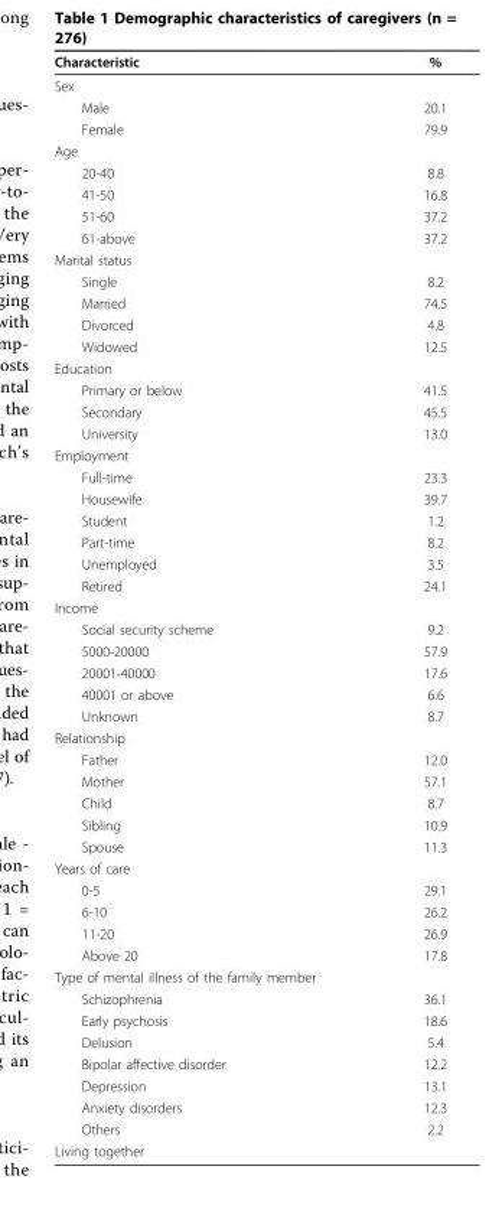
<table><thead><tr><td>Characteristic</td><td>%</td></tr></thead><tbody><tr><td colspan="2">Sex</td></tr><tr><td>Male</td><td>20.1</td></tr><tr><td>Female</td><td>79.9</td></tr><tr><td colspan="2">Age</td></tr><tr><td>20-40</td><td>8.8</td></tr><tr><td>41-50</td><td>16.8</td></tr><tr><td>51-60</td><td>37.2</td></tr><tr><td>61-above</td><td>37.2</td></tr><tr><td colspan="2">Marital status</td></tr><tr><td>Single</td><td>8.2</td></tr><tr><td>Married</td><td>74.5</td></tr><tr><td>Divorced</td><td>4.8</td></tr><tr><td>Widowed</td><td>12.5</td></tr><tr><td colspan="2">Education</td></tr><tr><td>Primary or below</td><td>41.5</td></tr><tr><td>Secondary</td><td>45.5</td></tr><tr><td>University</td><td>13.0</td></tr><tr><td colspan="2">Employment</td></tr><tr><td>Full-time</td><td>23.3</td></tr><tr><td>Housewife</td><td>39.7</td></tr><tr><td>Student</td><td>1.2</td></tr><tr><td>Part-time</td><td>8.2</td></tr><tr><td>Unemployed</td><td>3.5</td></tr><tr><td>Retired</td><td>24.1</td></tr><tr><td colspan="2">Income</td></tr><tr><td>Social security scheme</td><td>9.2</td></tr><tr><td>5000-20000</td><td>57.9</td></tr><tr><td>20001-40000</td><td>17.6</td></tr><tr><td>40001 or above</td><td>6.6</td></tr><tr><td>Unknown</td><td>8.7</td></tr><tr><td colspan="2">Relationship</td></tr><tr><td>Father</td><td>12.0</td></tr><tr><td>Mother</td><td>57.1</td></tr><tr><td>Child</td><td>8.7</td></tr><tr><td>Sibling</td><td>10.9</td></tr><tr><td>Spouse</td><td>11.3</td></tr><tr><td colspan="2">Years of care</td></tr><tr><td>0-5</td><td>29.1</td></tr><tr><td>6-10</td><td>26.2</td></tr><tr><td>11-20</td><td>26.9</td></tr><tr><td>Above 20</td><td>17.8</td></tr><tr><td colspan="2">Type of mental illness of the family member</td></tr><tr><td>Schizophrenia</td><td>36.1</td></tr><tr><td>Early psychosis</td><td>18.6</td></tr><tr><td>Delusion</td><td>5.4</td></tr><tr><td>Bipolar affective disorder</td><td>12.2</td></tr><tr><td>Depression</td><td>13.1</td></tr><tr><td>Anxiety disorders</td><td>12.3</td></tr><tr><td>Others</td><td>2.2</td></tr><tr><td>Living together</td><td></td></tr></tbody></table>